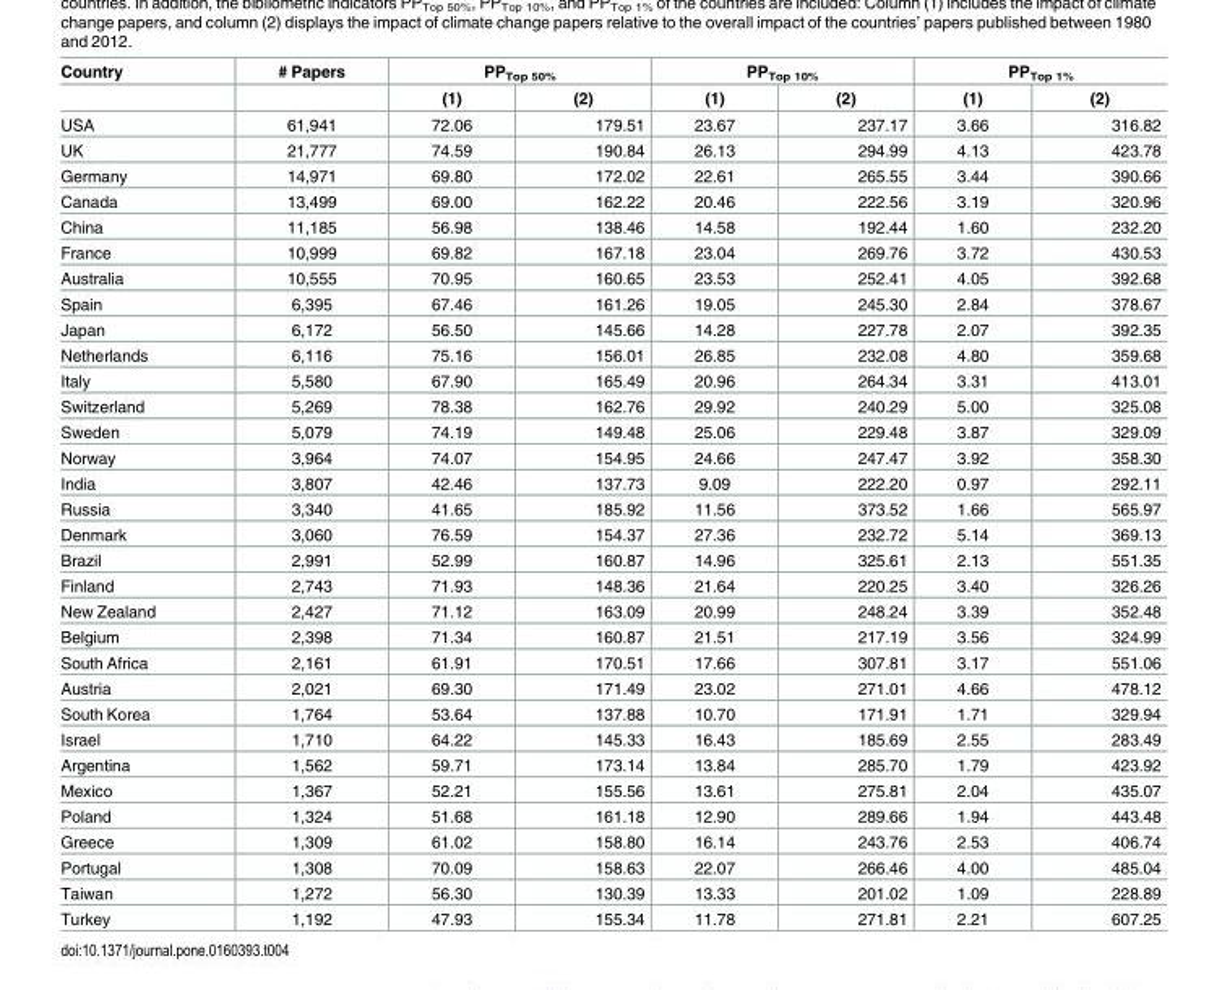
<table><thead><tr><td rowspan="2">Country</td><td rowspan="2"># Papers</td><td colspan="2">PP<sub>Top 50%</sub></td><td colspan="2">PP<sub>Top 10%</sub></td><td colspan="2">PP<sub>Top 1%</sub></td></tr><tr><td>(1)</td><td>(2)</td><td>(1)</td><td>(2)</td><td>(1)</td><td>(2)</td></tr></thead><tbody><tr><td>USA</td><td>61,941</td><td>72.06</td><td>179.51</td><td>23.67</td><td>237.17</td><td>3.66</td><td>316.82</td></tr><tr><td>UK</td><td>21,777</td><td>74.59</td><td>190.84</td><td>26.13</td><td>294.99</td><td>4.13</td><td>423.78</td></tr><tr><td>Germany</td><td>14,971</td><td>69.80</td><td>172.02</td><td>22.61</td><td>265.55</td><td>3.44</td><td>390.66</td></tr><tr><td>Canada</td><td>13,499</td><td>69.00</td><td>162.22</td><td>20.46</td><td>222.56</td><td>3.19</td><td>320.96</td></tr><tr><td>China</td><td>11,185</td><td>56.98</td><td>138.46</td><td>14.58</td><td>192.44</td><td>1.60</td><td>232.20</td></tr><tr><td>France</td><td>10,999</td><td>69.82</td><td>167.18</td><td>23.04</td><td>269.76</td><td>3.72</td><td>430.53</td></tr><tr><td>Australia</td><td>10,555</td><td>70.95</td><td>160.65</td><td>23.53</td><td>252.41</td><td>4.05</td><td>392.68</td></tr><tr><td>Spain</td><td>6,395</td><td>67.46</td><td>161.26</td><td>19.05</td><td>245.30</td><td>2.84</td><td>378.67</td></tr><tr><td>Japan</td><td>6,172</td><td>56.50</td><td>145.66</td><td>14.28</td><td>227.78</td><td>2.07</td><td>392.35</td></tr><tr><td>Netherlands</td><td>6,116</td><td>75.16</td><td>156.01</td><td>26.85</td><td>232.08</td><td>4.80</td><td>359.68</td></tr><tr><td>Italy</td><td>5,580</td><td>67.90</td><td>165.49</td><td>20.96</td><td>264.34</td><td>3.31</td><td>413.01</td></tr><tr><td>Switzerland</td><td>5,269</td><td>78.38</td><td>162.76</td><td>29.92</td><td>240.29</td><td>5.00</td><td>325.08</td></tr><tr><td>Sweden</td><td>5,079</td><td>74.19</td><td>149.48</td><td>25.06</td><td>229.48</td><td>3.87</td><td>329.09</td></tr><tr><td>Norway</td><td>3,964</td><td>74.07</td><td>154.95</td><td>24.66</td><td>247.47</td><td>3.92</td><td>358.30</td></tr><tr><td>India</td><td>3,807</td><td>42.46</td><td>137.73</td><td>9.09</td><td>222.20</td><td>0.97</td><td>292.11</td></tr><tr><td>Russia</td><td>3,340</td><td>41.65</td><td>185.92</td><td>11.56</td><td>373.52</td><td>1.66</td><td>565.97</td></tr><tr><td>Denmark</td><td>3,060</td><td>76.59</td><td>154.37</td><td>27.36</td><td>232.72</td><td>5.14</td><td>369.13</td></tr><tr><td>Brazil</td><td>2,991</td><td>52.99</td><td>160.87</td><td>14.96</td><td>325.61</td><td>2.13</td><td>551.35</td></tr><tr><td>Finland</td><td>2,743</td><td>71.93</td><td>148.36</td><td>21.64</td><td>220.25</td><td>3.40</td><td>326.26</td></tr><tr><td>New Zealand</td><td>2,427</td><td>71.12</td><td>163.09</td><td>20.99</td><td>248.24</td><td>3.39</td><td>352.48</td></tr><tr><td>Belgium</td><td>2,398</td><td>71.34</td><td>160.87</td><td>21.51</td><td>217.19</td><td>3.56</td><td>324.99</td></tr><tr><td>South Africa</td><td>2,161</td><td>61.91</td><td>170.51</td><td>17.66</td><td>307.81</td><td>3.17</td><td>551.06</td></tr><tr><td>Austria</td><td>2,021</td><td>69.30</td><td>171.49</td><td>23.02</td><td>271.01</td><td>4.66</td><td>478.12</td></tr><tr><td>South Korea</td><td>1,764</td><td>53.64</td><td>137.88</td><td>10.70</td><td>171.91</td><td>1.71</td><td>329.94</td></tr><tr><td>Israel</td><td>1,710</td><td>64.22</td><td>145.33</td><td>16.43</td><td>185.69</td><td>2.55</td><td>283.49</td></tr><tr><td>Argentina</td><td>1,562</td><td>59.71</td><td>173.14</td><td>13.84</td><td>285.70</td><td>1.79</td><td>423.92</td></tr><tr><td>Mexico</td><td>1,367</td><td>52.21</td><td>155.56</td><td>13.61</td><td>275.81</td><td>2.04</td><td>435.07</td></tr><tr><td>Poland</td><td>1,324</td><td>51.68</td><td>161.18</td><td>12.90</td><td>289.66</td><td>1.94</td><td>443.48</td></tr><tr><td>Greece</td><td>1,309</td><td>61.02</td><td>158.80</td><td>16.14</td><td>243.76</td><td>2.53</td><td>406.74</td></tr><tr><td>Portugal</td><td>1,308</td><td>70.09</td><td>158.63</td><td>22.07</td><td>266.46</td><td>4.00</td><td>485.04</td></tr><tr><td>Taiwan</td><td>1,272</td><td>56.30</td><td>130.39</td><td>13.33</td><td>201.02</td><td>1.09</td><td>228.89</td></tr><tr><td>Turkey</td><td>1,192</td><td>47.93</td><td>155.34</td><td>11.78</td><td>271.81</td><td>2.21</td><td>607.25</td></tr></tbody></table>